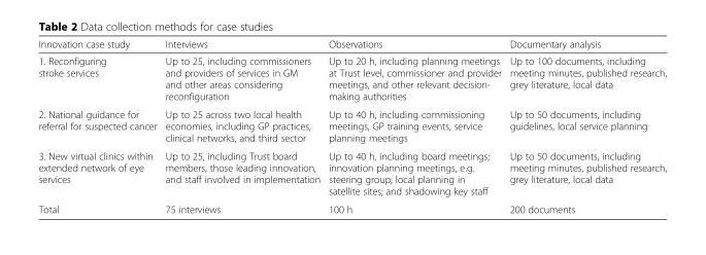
<table><thead><tr><td>Innovation case study</td><td>Interviews</td><td>Observations</td><td>Documentary analysis</td></tr></thead><tbody><tr><td>1. Reconfiguring stroke services</td><td>Up to 25, including commissioners and providers of services in GM and other areas considering reconfiguration</td><td>Up to 20 h, including planning meetings at Trust level, commissioner and provider meetings, and other relevant decision- making authorities</td><td>Up to 100 documents, including meeting minutes, published research, grey literature, local data</td></tr><tr><td>2. National guidance for referral for suspected cancer</td><td>Up to 25 across two local health economies, including GP practices, clinical networks, and third sector</td><td>Up to 40 h, including commissioning meetings, GP training events, service planning meetings</td><td>Up to 50 documents, including guidelines, local service planning</td></tr><tr><td>3. New virtual clinics within extended network of eye services</td><td>Up to 25, including Trust board members, those leading innovation, and staff involved in implementation</td><td>Up to 40 h, including board meetings; innovation planning meetings, e.g. steering group; local planning in satellite sites; and shadowing key staff</td><td>Up to 50 documents, including meeting minutes, published research, grey literature, local data</td></tr><tr><td>Total</td><td>75 interviews</td><td>100 h</td><td>200 documents</td></tr></tbody></table>